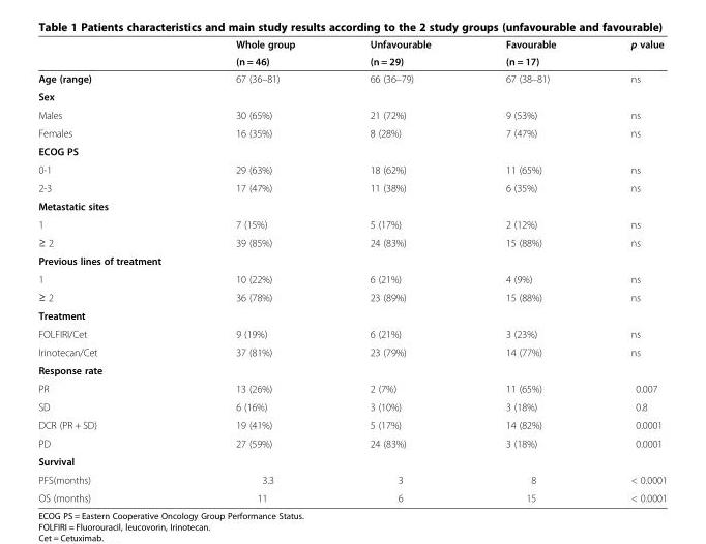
<table><thead><tr><td rowspan="2"></td><td rowspan="2">Whole group (n = 46)</td><td rowspan="2">Unfavourable (n = 29)</td><td rowspan="2">Favourable (n = 17)</td><td rowspan="2">p value</td></tr><tr></tr></thead><tbody><tr><td>Age (range)</td><td>67 (36–81)</td><td>66 (36–79)</td><td>67 (38–81)</td><td>ns</td></tr><tr><td colspan="5">Sex</td></tr><tr><td>Males</td><td>30 (65%)</td><td>21 (72%)</td><td>9 (53%)</td><td>ns</td></tr><tr><td>Females</td><td>16 (35%)</td><td>8 (28%)</td><td>7 (47%)</td><td>ns</td></tr><tr><td colspan="5">ECOG PS</td></tr><tr><td>0-1</td><td>29 (63%)</td><td>18 (62%)</td><td>11 (65%)</td><td>ns</td></tr><tr><td>2-3</td><td>17 (47%)</td><td>11 (38%)</td><td>6 (35%)</td><td>ns</td></tr><tr><td colspan="5">Metastatic sites</td></tr><tr><td>1</td><td>7 (15%)</td><td>5 (17%)</td><td>2 (12%)</td><td>ns</td></tr><tr><td>≥ 2</td><td>39 (85%)</td><td>24 (83%)</td><td>15 (88%)</td><td>ns</td></tr><tr><td colspan="5">Previous lines of treatment</td></tr><tr><td>1</td><td>10 (22%)</td><td>6 (21%)</td><td>4 (9%)</td><td>ns</td></tr><tr><td>≥ 2</td><td>36 (78%)</td><td>23 (89%)</td><td>15 (88%)</td><td>ns</td></tr><tr><td colspan="5">Treatment</td></tr><tr><td>FOLFIRI/Cet</td><td>9 (19%)</td><td>6 (21%)</td><td>3 (23%)</td><td>ns</td></tr><tr><td>Irinotecan/Cet</td><td>37 (81%)</td><td>23 (79%)</td><td>14 (77%)</td><td>ns</td></tr><tr><td colspan="5">Response rate</td></tr><tr><td>PR</td><td>13 (26%)</td><td>2 (7%)</td><td>11 (65%)</td><td>0.007</td></tr><tr><td>SD</td><td>6 (16%)</td><td>3 (10%)</td><td>3 (18%)</td><td>0.8</td></tr><tr><td>DCR (PR + SD)</td><td>19 (41%)</td><td>5 (17%)</td><td>14 (82%)</td><td>0.0001</td></tr><tr><td>PD</td><td>27 (59%)</td><td>24 (83%)</td><td>3 (18%)</td><td>0.0001</td></tr><tr><td colspan="5">Survival</td></tr><tr><td>PFS(months)</td><td>3.3</td><td>3</td><td>8</td><td>&lt; 0.0001</td></tr><tr><td>OS (months)</td><td>11</td><td>6</td><td>15</td><td>&lt; 0.0001</td></tr></tbody></table>